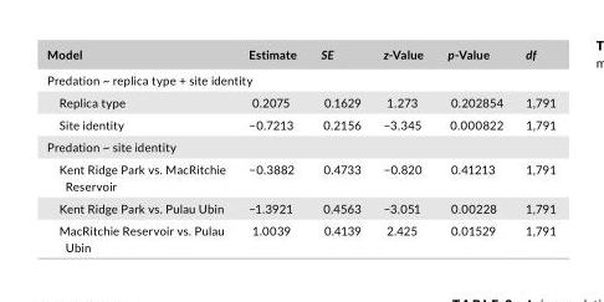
<table><thead><tr><td>Model</td><td>Estimate</td><td>SE</td><td>z- Value</td><td>p- Value</td><td>df</td></tr></thead><tbody><tr><td colspan="6">Predation ~ replica type + site identity</td></tr><tr><td>Replica type</td><td>0.2075</td><td>0.1629</td><td>1.273</td><td>0.202854</td><td>1,791</td></tr><tr><td>Site identity</td><td>−0.7213</td><td>0.2156</td><td>−3.345</td><td>0.000822</td><td>1,791</td></tr><tr><td colspan="6">Predation ~ site identity</td></tr><tr><td>Kent Ridge Park vs. MacRitchie Reservoir</td><td>−0.3882</td><td>0.4733</td><td>−0.820</td><td>0.41213</td><td>1,791</td></tr><tr><td>Kent Ridge Park vs. Pulau Ubin</td><td>−1.3921</td><td>0.4563</td><td>−3.051</td><td>0.00228</td><td>1,791</td></tr><tr><td>MacRitchie Reservoir vs. Pulau Ubin</td><td>1.0039</td><td>0.4139</td><td>2.425</td><td>0.01529</td><td>1,791</td></tr></tbody></table>